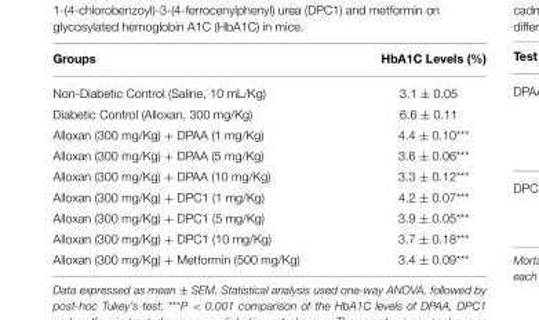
<table><thead><tr><td>Groups</td><td>HbA1C Levels (%)</td></tr></thead><tbody><tr><td>Non-Diabetic Control (Saline, 10 mL/Kg)</td><td>3.1 ± 0.05</td></tr><tr><td>Diabetic Control (Alloxan, 300 mg/Kg)</td><td>6.6 ± 0.11</td></tr><tr><td>Alloxan (300 mg/Kg) + DPAA (1 mg/Kg)</td><td>4.4 ± 0.10***</td></tr><tr><td>Alloxan (300 mg/Kg) + DPAA (5 mg/Kg)</td><td>3.6 ± 0.06***</td></tr><tr><td>Alloxan (300 mg/Kg) + DPAA (10 mg/Kg)</td><td>3.3 ± 0.12***</td></tr><tr><td>Alloxan (300 mg/Kg) + DPC1 (1 mg/Kg)</td><td>4.2 ± 0.07***</td></tr><tr><td>Alloxan (300 mg/Kg) + DPC1 (5 mg/Kg)</td><td>3.9 ± 0.05***</td></tr><tr><td>Alloxan (300 mg/Kg) + DPC1 (10 mg/Kg)</td><td>3.7 ± 0.18***</td></tr><tr><td>Alloxan (300 mg/Kg) + Metformin (500 mg/Kg)</td><td>3.4 ± 0.09***</td></tr></tbody></table>